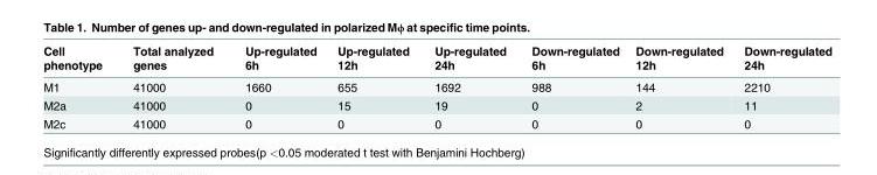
<table><thead><tr><td>Cell phenotype</td><td>Total analyzed genes</td><td>Up-regulated 6h</td><td>Up-regulated 12h</td><td>Up-regulated 24h</td><td>Down-regulated 6h</td><td>Down-regulated 12h</td><td>Down-regulated 24h</td></tr></thead><tbody><tr><td>M1</td><td>41000</td><td>1660</td><td>655</td><td>1692</td><td>988</td><td>144</td><td>2210</td></tr><tr><td>M2a</td><td>41000</td><td>0</td><td>15</td><td>19</td><td>0</td><td>2</td><td>11</td></tr><tr><td>M2c</td><td>41000</td><td>0</td><td>0</td><td>0</td><td>0</td><td>0</td><td>0</td></tr></tbody></table>